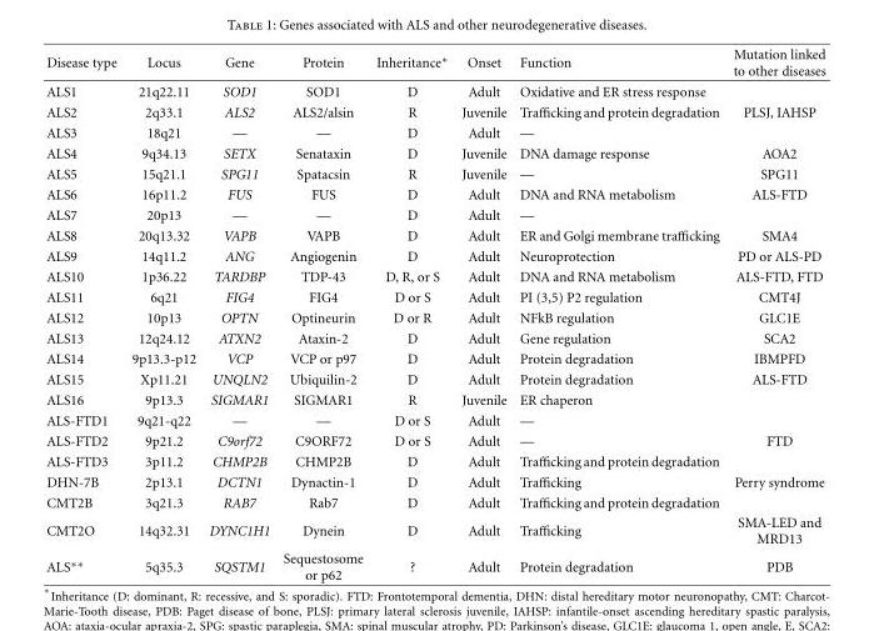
<table><thead><tr><td>Disease type</td><td>Locus</td><td>Gene</td><td>Protein</td><td>Inheritance∗</td><td>Onset</td><td>Function</td><td>Mutation linked to other diseases</td></tr></thead><tbody><tr><td>ALS1</td><td>21q22.11</td><td>SOD1</td><td>SOD1</td><td>D</td><td>Adult</td><td>Oxidative and ER stress response</td><td></td></tr><tr><td>ALS2</td><td>2q33.1</td><td>ALS2</td><td>ALS2/alsin</td><td>R</td><td>Juvenile</td><td>Trafficking and protein degradation</td><td>PLSJ, IAHSP</td></tr><tr><td>ALS3</td><td>18q21</td><td>—</td><td>—</td><td>D</td><td>Adult</td><td>—</td><td></td></tr><tr><td>ALS4</td><td>9q34.13</td><td>SETX</td><td>Senataxin</td><td>D</td><td>Juvenile</td><td>DNA damage response</td><td>AOA2</td></tr><tr><td>ALS5</td><td>15q21.1</td><td>SPG11</td><td>Spatacsin</td><td>R</td><td>Juvenile</td><td>—</td><td>SPG11</td></tr><tr><td>ALS6</td><td>16p11.2</td><td>FUS</td><td>FUS</td><td>D</td><td>Adult</td><td>DNA and RNA metabolism</td><td>ALS-FTD</td></tr><tr><td>ALS7</td><td>20p13</td><td>—</td><td>—</td><td>D</td><td>Adult</td><td>—</td><td></td></tr><tr><td>ALS8</td><td>20q13.32</td><td>VAPB</td><td>VAPB</td><td>D</td><td>Adult</td><td>ER and Golgi membrane trafficking</td><td>SMA4</td></tr><tr><td>ALS9</td><td>14q11.2</td><td>ANG</td><td>Angiogenin</td><td>D</td><td>Adult</td><td>Neuroprotection</td><td>PD or ALS-PD</td></tr><tr><td>ALS10</td><td>1p36.22</td><td>TARDBP</td><td>TDP-43</td><td>D, R, or S</td><td>Adult</td><td>DNA and RNA metabolism</td><td>ALS-FTD, FTD</td></tr><tr><td>ALS11</td><td>6q21</td><td>FIG4</td><td>FIG4</td><td>D or S</td><td>Adult</td><td>PI (3,5) P2 regulation</td><td>CMT4J</td></tr><tr><td>ALS12</td><td>10p13</td><td>OPTN</td><td>Optineurin</td><td>D or R</td><td>Adult</td><td>NFkB regulation</td><td>GLC1E</td></tr><tr><td>ALS13</td><td>12q24.12</td><td>ATXN2</td><td>Ataxin-2</td><td>D</td><td>Adult</td><td>Gene regulation</td><td>SCA2</td></tr><tr><td>ALS14</td><td>9p13.3-p12</td><td>VCP</td><td>VCP or p97</td><td>D</td><td>Adult</td><td>Protein degradation</td><td>IBMPFD</td></tr><tr><td>ALS15</td><td>Xp11.21</td><td>UNQLN2</td><td>Ubiquilin-2</td><td>D</td><td>Adult</td><td>Protein degradation</td><td>ALS-FTD</td></tr><tr><td>ALS16</td><td>9p13.3</td><td>SIGMAR1</td><td>SIGMAR1</td><td>R</td><td>Juvenile</td><td>ER chaperon</td><td></td></tr><tr><td>ALS-FTD1</td><td>9q21-q22</td><td>—</td><td>—</td><td>D or S</td><td>Adult</td><td>—</td><td></td></tr><tr><td>ALS-FTD2</td><td>9p21.2</td><td>C9orf72</td><td>C9ORF72</td><td>D or S</td><td>Adult</td><td>—</td><td>FTD</td></tr><tr><td>ALS-FTD3</td><td>3p11.2</td><td>CHMP2B</td><td>CHMP2B</td><td>D</td><td>Adult</td><td>Trafficking and protein degradation</td><td></td></tr><tr><td>DHN-7B</td><td>2p13.1</td><td>DCTN1</td><td>Dynactin-1</td><td>D</td><td>Adult</td><td>Trafficking</td><td>Perry syndrome</td></tr><tr><td>CMT2B</td><td>3q21.3</td><td>RAB7</td><td>Rab7</td><td>D</td><td>Adult</td><td>Trafficking and protein degradation</td><td></td></tr><tr><td>CMT2O</td><td>14q32.31</td><td>DYNC1H1</td><td>Dynein</td><td>D</td><td>Adult</td><td>Trafficking</td><td>SMA-LED and MRD13</td></tr><tr><td>ALS∗∗</td><td>5q35.3</td><td>SQSTM1</td><td>Sequestosome or p62</td><td>?</td><td>Adult</td><td>Protein degradation</td><td>PDB</td></tr></tbody></table>